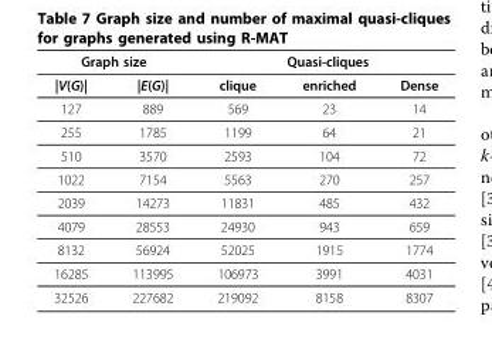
<table><thead><tr><td colspan="2">Graph size</td><td colspan="3">Quasi-cliques</td></tr><tr><td>|V(G)|</td><td>|E(G)|</td><td>clique</td><td>enriched</td><td>Dense</td></tr></thead><tbody><tr><td>127</td><td>889</td><td>569</td><td>23</td><td>14</td></tr><tr><td>255</td><td>1785</td><td>1199</td><td>64</td><td>21</td></tr><tr><td>510</td><td>3570</td><td>2593</td><td>104</td><td>72</td></tr><tr><td>1022</td><td>7154</td><td>5563</td><td>270</td><td>257</td></tr><tr><td>2039</td><td>14273</td><td>11831</td><td>485</td><td>432</td></tr><tr><td>4079</td><td>28553</td><td>24930</td><td>943</td><td>659</td></tr><tr><td>8132</td><td>56924</td><td>52025</td><td>1915</td><td>1774</td></tr><tr><td>16285</td><td>113995</td><td>106973</td><td>3991</td><td>4031</td></tr><tr><td>32526</td><td>227682</td><td>219092</td><td>8158</td><td>8307</td></tr></tbody></table>